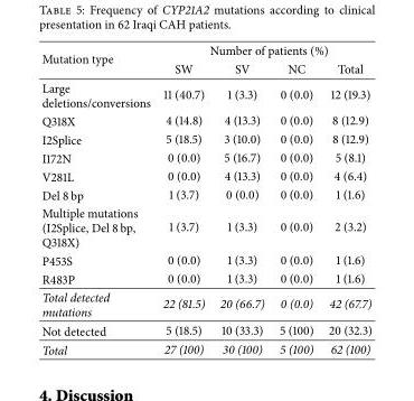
<table><thead><tr><td rowspan="2">Mutation type</td><td colspan="4">Number of patients (%)</td></tr><tr><td>SW</td><td>SV</td><td>NC</td><td>Total</td></tr></thead><tbody><tr><td>Large deletions/conversions</td><td>11 (40.7)</td><td>1 (3.3)</td><td>0 (0.0)</td><td>12 (19.3)</td></tr><tr><td>Q318X</td><td>4 (14.8)</td><td>4 (13.3)</td><td>0 (0.0)</td><td>8 (12.9)</td></tr><tr><td>I2Splice</td><td>5 (18.5)</td><td>3 (10.0)</td><td>0 (0.0)</td><td>8 (12.9)</td></tr><tr><td>I172N</td><td>0 (0.0)</td><td>5 (16.7)</td><td>0 (0.0)</td><td>5 (8.1)</td></tr><tr><td>V281L</td><td>0 (0.0)</td><td>4 (13.3)</td><td>0 (0.0)</td><td>4 (6.4)</td></tr><tr><td>Del 8 bp</td><td>1 (3.7)</td><td>0 (0.0)</td><td>0 (0.0)</td><td>1 (1.6)</td></tr><tr><td>Multiple mutations (I2Splice, Del 8 bp, Q318X)</td><td>1 (3.7)</td><td>1 (3.3)</td><td>0 (0.0)</td><td>2 (3.2)</td></tr><tr><td>P453S</td><td>0 (0.0)</td><td>1 (3.3)</td><td>0 (0.0)</td><td>1 (1.6)</td></tr><tr><td>R483P</td><td>0 (0.0)</td><td>1 (3.3)</td><td>0 (0.0)</td><td>1 (1.6)</td></tr><tr><td>Total detected mutations</td><td>22 (81.5)</td><td>20 (66.7)</td><td>0 (0.0)</td><td>42 (67.7)</td></tr><tr><td>Not detected</td><td>5 (18.5)</td><td>10 (33.3)</td><td>5 (100)</td><td>20 (32.3)</td></tr><tr><td>Total</td><td>27 (100)</td><td>30 (100)</td><td>5 (100)</td><td>62 (100)</td></tr></tbody></table>